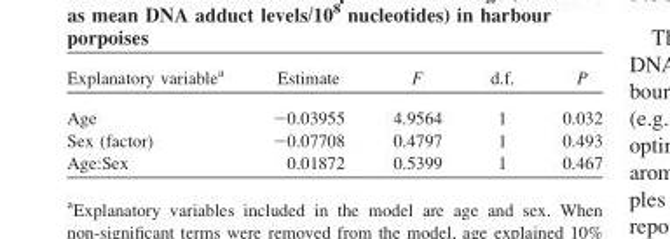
<table><thead><tr><td>Explanatory variable<sup>a</sup></td><td>Estimate</td><td>F</td><td>d.f.</td><td>P</td></tr></thead><tbody><tr><td>Age</td><td>−0.03955</td><td>4.9564</td><td>1</td><td>0.032</td></tr><tr><td>Sex (factor)</td><td>−0.07708</td><td>0.4797</td><td>1</td><td>0.493</td></tr><tr><td>Age:Sex</td><td>0.01872</td><td>0.5399</td><td>1</td><td>0.467</td></tr></tbody></table>